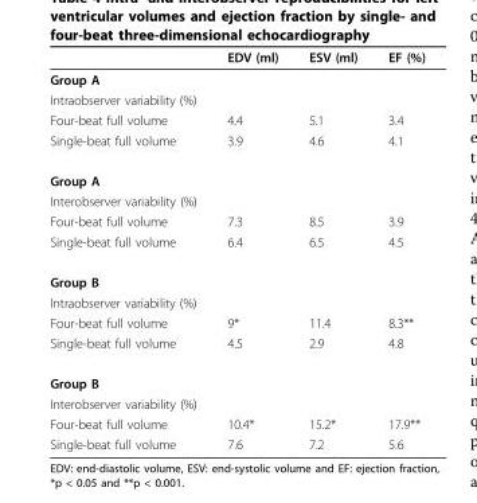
<table><thead><tr><td></td><td>EDV (ml)</td><td>ESV (ml)</td><td>EF (%)</td></tr></thead><tbody><tr><td colspan="4">Group A</td></tr><tr><td colspan="4">Intraobserver variability (%)</td></tr><tr><td>Four-beat full volume</td><td>4.4</td><td>5.1</td><td>3.4</td></tr><tr><td>Single-beat full volume</td><td>3.9</td><td>4.6</td><td>4.1</td></tr><tr><td colspan="4">Group A</td></tr><tr><td colspan="4">Interobserver variability (%)</td></tr><tr><td>Four-beat full volume</td><td>7.3</td><td>8.5</td><td>3.9</td></tr><tr><td>Single-beat full volume</td><td>6.4</td><td>6.5</td><td>4.5</td></tr><tr><td colspan="4">Group B</td></tr><tr><td colspan="4">Intraobserver variability (%)</td></tr><tr><td>Four-beat full volume</td><td>9*</td><td>11.4</td><td>8.3**</td></tr><tr><td>Single-beat full volume</td><td>4.5</td><td>2.9</td><td>4.8</td></tr><tr><td colspan="4">Group B</td></tr><tr><td colspan="4">Interobserver variability (%)</td></tr><tr><td>Four-beat full volume</td><td>10.4*</td><td>15.2*</td><td>17.9**</td></tr><tr><td>Single-beat full volume</td><td>7.6</td><td>7.2</td><td>5.6</td></tr></tbody></table>